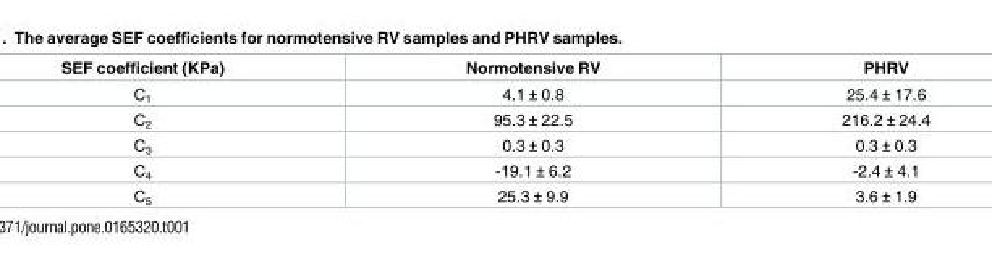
<table><thead><tr><td>SEF coefficient (KPa)</td><td>Normotensive RV</td><td>PHRV</td></tr></thead><tbody><tr><td>C<sub>1</sub></td><td>4.1 ± 0.8</td><td>25.4 ± 17.6</td></tr><tr><td>C<sub>2</sub></td><td>95.3 ± 22.5</td><td>216.2 ± 24.4</td></tr><tr><td>C<sub>3</sub></td><td>0.3 ± 0.3</td><td>0.3 ± 0.3</td></tr><tr><td>C<sub>4</sub></td><td>-19.1 ± 6.2</td><td>-2.4 ± 4.1</td></tr><tr><td>C<sub>5</sub></td><td>25.3 ± 9.9</td><td>3.6 ± 1.9</td></tr></tbody></table>